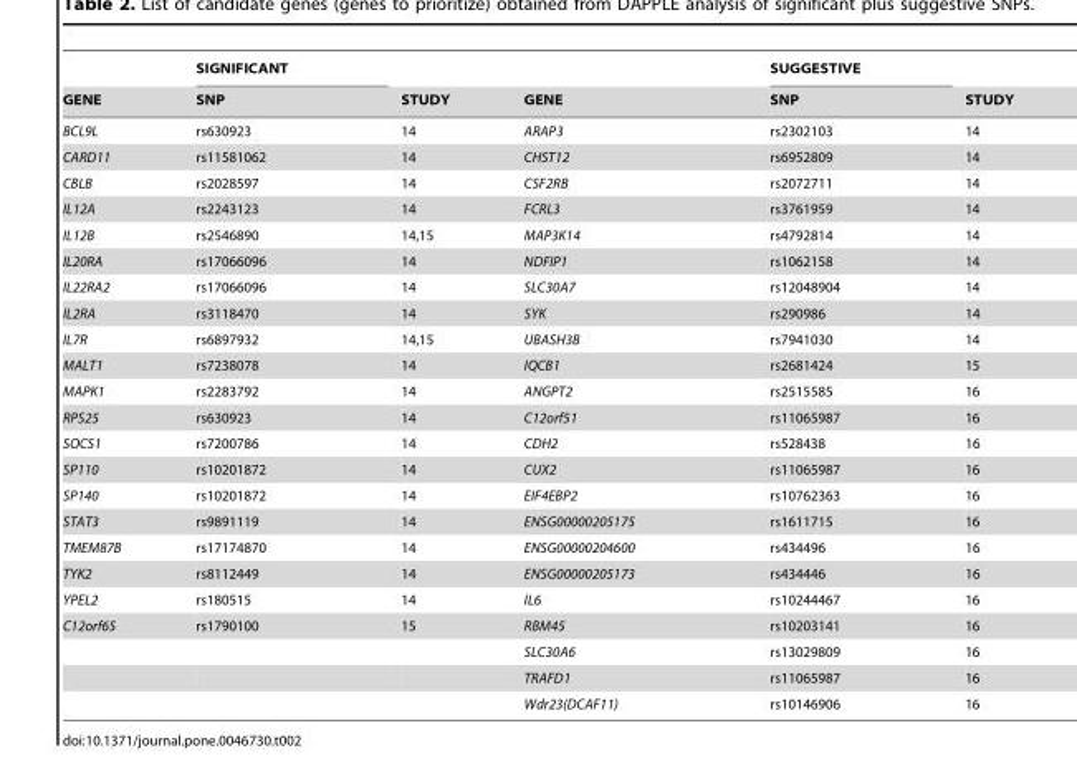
<table><thead><tr><td rowspan="2">GENE</td><td rowspan="2">SIGNIFICANT SNP</td><td rowspan="2">STUDY</td><td rowspan="2">GENE</td><td rowspan="2">SUGGESTIVE SNP</td><td rowspan="2">STUDY</td></tr><tr></tr></thead><tbody><tr><td>BCL9L</td><td>rs630923</td><td>14</td><td>ARAP3</td><td>rs2302103</td><td>14</td></tr><tr><td>CARD11</td><td>rs11581062</td><td>14</td><td>CHST12</td><td>rs6952809</td><td>14</td></tr><tr><td>CBLB</td><td>rs2028597</td><td>14</td><td>CSF2RB</td><td>rs2072711</td><td>14</td></tr><tr><td>IL12A</td><td>rs2243123</td><td>14</td><td>FCRL3</td><td>rs3761959</td><td>14</td></tr><tr><td>IL12B</td><td>rs2546890</td><td>14,15</td><td>MAP3K14</td><td>rs4792814</td><td>14</td></tr><tr><td>IL20RA</td><td>rs17066096</td><td>14</td><td>NDFIP1</td><td>rs1062158</td><td>14</td></tr><tr><td>IL22RA2</td><td>rs17066096</td><td>14</td><td>SLC30A7</td><td>rs12048904</td><td>14</td></tr><tr><td>IL2RA</td><td>rs3118470</td><td>14</td><td>SYK</td><td>rs290986</td><td>14</td></tr><tr><td>IL7R</td><td>rs6897932</td><td>14,15</td><td>UBASH3B</td><td>rs7941030</td><td>14</td></tr><tr><td>MALT1</td><td>rs7238078</td><td>14</td><td>IQCB1</td><td>rs2681424</td><td>15</td></tr><tr><td>MAPK1</td><td>rs2283792</td><td>14</td><td>ANGPT2</td><td>rs2515585</td><td>16</td></tr><tr><td>RPS25</td><td>rs630923</td><td>14</td><td>C12orf51</td><td>rs11065987</td><td>16</td></tr><tr><td>SOCS1</td><td>rs7200786</td><td>14</td><td>CDH2</td><td>rs528438</td><td>16</td></tr><tr><td>SP110</td><td>rs10201872</td><td>14</td><td>CUX2</td><td>rs11065987</td><td>16</td></tr><tr><td>SP140</td><td>rs10201872</td><td>14</td><td>EIF4EBP2</td><td>rs10762363</td><td>16</td></tr><tr><td>STAT3</td><td>rs9891119</td><td>14</td><td>ENSG00000205175</td><td>rs1611715</td><td>16</td></tr><tr><td>TMEM87B</td><td>rs17174870</td><td>14</td><td>ENSG00000204600</td><td>rs434496</td><td>16</td></tr><tr><td>TYK2</td><td>rs8112449</td><td>14</td><td>ENSG00000205173</td><td>rs434446</td><td>16</td></tr><tr><td>YPEL2</td><td>rs180515</td><td>14</td><td>IL6</td><td>rs10244467</td><td>16</td></tr><tr><td rowspan="4">C12orf65</td><td>rs1790100</td><td>15</td><td>RBM45</td><td>rs10203141</td><td>16</td></tr><tr><td></td><td></td><td>SLC30A6</td><td>rs13029809</td><td>16</td></tr><tr><td></td><td></td><td>TRAFD1</td><td>rs11065987</td><td>16</td></tr><tr><td></td><td></td><td>Wdr23(DCAF11)</td><td>rs10146906</td><td>16</td></tr></tbody></table>